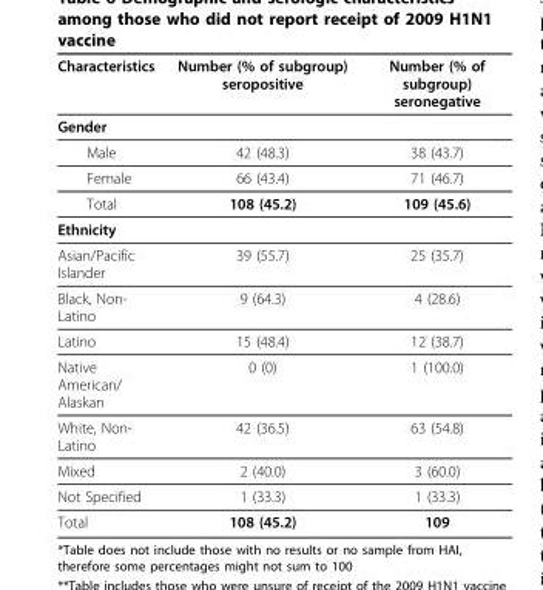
<table><thead><tr><td>Characteristics</td><td>Number (% of subgroup) seropositive</td><td>Number (% of subgroup) seronegative</td></tr></thead><tbody><tr><td colspan="3">Gender</td></tr><tr><td>Male</td><td>42 (48.3)</td><td>38 (43.7)</td></tr><tr><td>Female</td><td>66 (43.4)</td><td>71 (46.7)</td></tr><tr><td>Total</td><td>108 (45.2)</td><td>109 (45.6)</td></tr><tr><td colspan="3">Ethnicity</td></tr><tr><td>Asian/Pacific Islander</td><td>39 (55.7)</td><td>25 (35.7)</td></tr><tr><td>Black, Non- Latino</td><td>9 (64.3)</td><td>4 (28.6)</td></tr><tr><td>Latino</td><td>15 (48.4)</td><td>12 (38.7)</td></tr><tr><td>Native American/ Alaskan</td><td>0 (0)</td><td>1 (100.0)</td></tr><tr><td>White, Non- Latino</td><td>42 (36.5)</td><td>63 (54.8)</td></tr><tr><td>Mixed</td><td>2 (40.0)</td><td>3 (60.0)</td></tr><tr><td>Not Specified</td><td>1 (33.3)</td><td>1 (33.3)</td></tr><tr><td>Total</td><td>108 (45.2)</td><td>109</td></tr></tbody></table>